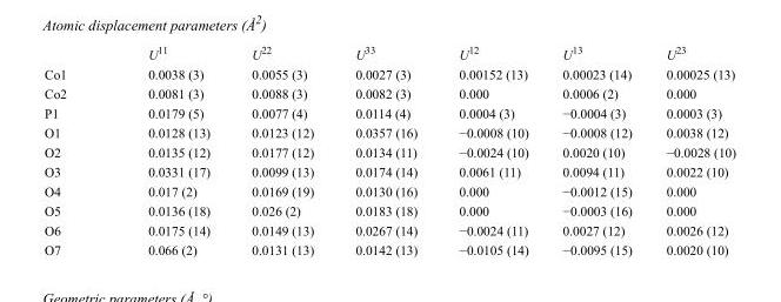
<table><thead><tr><td></td><td>U<sup>11</sup></td><td>U<sup>22</sup></td><td>U<sup>33</sup></td><td>U<sup>12</sup></td><td>U<sup>13</sup></td><td>U<sup>23</sup></td></tr></thead><tbody><tr><td>Co1</td><td>0.0038 (3)</td><td>0.0055 (3)</td><td>0.0027 (3)</td><td>0.00152 (13)</td><td>0.00023 (14)</td><td>0.00025 (13)</td></tr><tr><td>Co2</td><td>0.0081 (3)</td><td>0.0088 (3)</td><td>0.0082 (3)</td><td>0.000</td><td>0.0006 (2)</td><td>0.000</td></tr><tr><td>P1</td><td>0.0179 (5)</td><td>0.0077 (4)</td><td>0.0114 (4)</td><td>0.0004 (3)</td><td>−0.0004 (3)</td><td>0.0003 (3)</td></tr><tr><td>O1</td><td>0.0128 (13)</td><td>0.0123 (12)</td><td>0.0357 (16)</td><td>−0.0008 (10)</td><td>−0.0008 (12)</td><td>0.0038 (12)</td></tr><tr><td>O2</td><td>0.0135 (12)</td><td>0.0177 (12)</td><td>0.0134 (11)</td><td>−0.0024 (10)</td><td>0.0020 (10)</td><td>−0.0028 (10)</td></tr><tr><td>O3</td><td>0.0331 (17)</td><td>0.0099 (13)</td><td>0.0174 (14)</td><td>0.0061 (11)</td><td>0.0094 (11)</td><td>0.0022 (10)</td></tr><tr><td>O4</td><td>0.017 (2)</td><td>0.0169 (19)</td><td>0.0130 (16)</td><td>0.000</td><td>−0.0012 (15)</td><td>0.000</td></tr><tr><td>O5</td><td>0.0136 (18)</td><td>0.026 (2)</td><td>0.0183 (18)</td><td>0.000</td><td>−0.0003 (16)</td><td>0.000</td></tr><tr><td>O6</td><td>0.0175 (14)</td><td>0.0149 (13)</td><td>0.0267 (14)</td><td>−0.0024 (11)</td><td>0.0027 (12)</td><td>0.0026 (12)</td></tr><tr><td>O7</td><td>0.066 (2)</td><td>0.0131 (13)</td><td>0.0142 (13)</td><td>−0.0105 (14)</td><td>−0.0095 (15)</td><td>0.0020 (10)</td></tr></tbody></table>